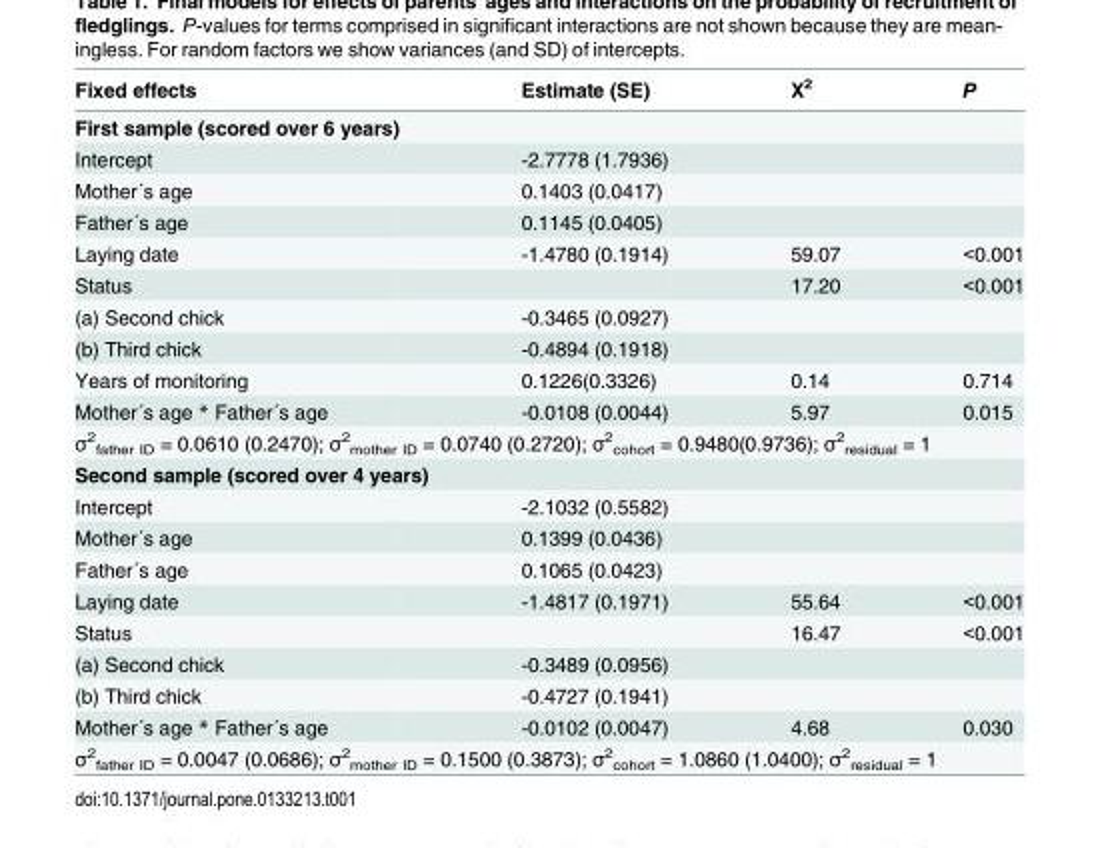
<table><thead><tr><td>Fixed effects</td><td>Estimate (SE)</td><td>X<sup>2</sup></td><td>P</td></tr></thead><tbody><tr><td colspan="4">First sample (scored over 6 years)</td></tr><tr><td>Intercept</td><td>-2.7778 (1.7936)</td><td></td><td></td></tr><tr><td>Mother´s age</td><td>0.1403 (0.0417)</td><td></td><td></td></tr><tr><td>Father´s age</td><td>0.1145 (0.0405)</td><td></td><td></td></tr><tr><td>Laying date</td><td>-1.4780 (0.1914)</td><td>59.07</td><td>&lt;0.001</td></tr><tr><td>Status</td><td></td><td>17.20</td><td>&lt;0.001</td></tr><tr><td>(a) Second chick</td><td>-0.3465 (0.0927)</td><td></td><td></td></tr><tr><td>(b) Third chick</td><td>-0.4894 (0.1918)</td><td></td><td></td></tr><tr><td>Years of monitoring</td><td>0.1226(0.3326)</td><td>0.14</td><td>0.714</td></tr><tr><td>Mother´s age * Father´s age</td><td>-0.0108 (0.0044)</td><td>5.97</td><td>0.015</td></tr><tr><td colspan="4">σ<sup>2</sup> <sub>father ID</sub> = 0.0610 (0.2470); σ<sup>2</sup> <sub>mother ID</sub> = 0.0740 (0.2720); σ<sup>2</sup> <sub>cohort</sub> = 0.9480(0.9736); σ<sup>2</sup> <sub>residual</sub> = 1</td></tr><tr><td colspan="4">Second sample (scored over 4 years)</td></tr><tr><td>Intercept</td><td>-2.1032 (0.5582)</td><td></td><td></td></tr><tr><td>Mother´s age</td><td>0.1399 (0.0436)</td><td></td><td></td></tr><tr><td>Father´s age</td><td>0.1065 (0.0423)</td><td></td><td></td></tr><tr><td>Laying date</td><td>-1.4817 (0.1971)</td><td>55.64</td><td>&lt;0.001</td></tr><tr><td>Status</td><td></td><td>16.47</td><td>&lt;0.001</td></tr><tr><td>(a) Second chick</td><td>-0.3489 (0.0956)</td><td></td><td></td></tr><tr><td>(b) Third chick</td><td>-0.4727 (0.1941)</td><td></td><td></td></tr><tr><td>Mother´s age * Father´s age</td><td>-0.0102 (0.0047)</td><td>4.68</td><td>0.030</td></tr><tr><td colspan="4">σ<sup>2</sup> <sub>father ID</sub> = 0.0047 (0.0686); σ<sup>2</sup> <sub>mother ID</sub> = 0.1500 (0.3873); σ<sup>2</sup> <sub>cohort</sub> = 1.0860 (1.0400); σ<sup>2</sup> <sub>residual</sub> = 1</td></tr></tbody></table>